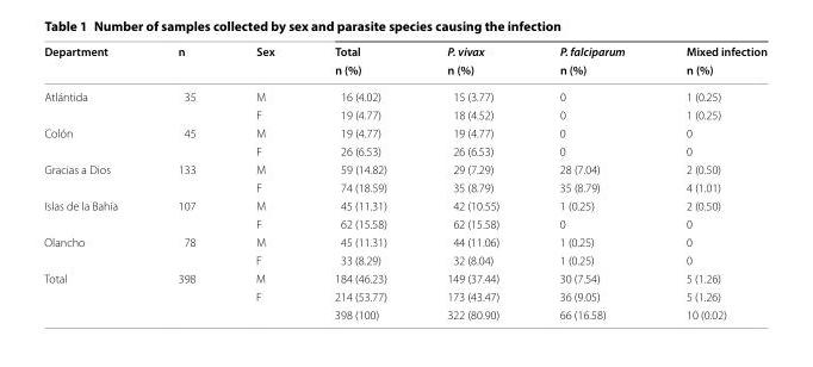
<table><thead><tr><td rowspan="2">Department</td><td rowspan="2">n</td><td rowspan="2">Sex</td><td rowspan="2">Total n (%)</td><td rowspan="2">P. vivax n (%)</td><td rowspan="2">P. falciparum n (%)</td><td rowspan="2">Mixed infection n (%)</td></tr><tr></tr></thead><tbody><tr><td rowspan="2">Atlántida</td><td rowspan="2">35</td><td>M</td><td>16 (4.02)</td><td>15 (3.77)</td><td>0</td><td>1 (0.25)</td></tr><tr><td>F</td><td>19 (4.77)</td><td>18 (4.52)</td><td>0</td><td>1 (0.25)</td></tr><tr><td rowspan="2">Colón</td><td rowspan="2">45</td><td>M</td><td>19 (4.77)</td><td>19 (4.77)</td><td>0</td><td>0</td></tr><tr><td>F</td><td>26 (6.53)</td><td>26 (6.53)</td><td>0</td><td>0</td></tr><tr><td rowspan="2">Gracias a Dios</td><td rowspan="2">133</td><td>M</td><td>59 (14.82)</td><td>29 (7.29)</td><td>28 (7.04)</td><td>2 (0.50)</td></tr><tr><td>F</td><td>74 (18.59)</td><td>35 (8.79)</td><td>35 (8.79)</td><td>4 (1.01)</td></tr><tr><td rowspan="2">Islas de la Bahía</td><td rowspan="2">107</td><td>M</td><td>45 (11.31)</td><td>42 (10.55)</td><td>1 (0.25)</td><td>2 (0.50)</td></tr><tr><td>F</td><td>62 (15.58)</td><td>62 (15.58)</td><td>0</td><td>0</td></tr><tr><td rowspan="2">Olancho</td><td rowspan="2">78</td><td>M</td><td>45 (11.31)</td><td>44 (11.06)</td><td>1 (0.25)</td><td>0</td></tr><tr><td>F</td><td>33 (8.29)</td><td>32 (8.04)</td><td>1 (0.25)</td><td>0</td></tr><tr><td rowspan="3">Total</td><td rowspan="3">398</td><td>M</td><td>184 (46.23)</td><td>149 (37.44)</td><td>30 (7.54)</td><td>5 (1.26)</td></tr><tr><td>F</td><td>214 (53.77)</td><td>173 (43.47)</td><td>36 (9.05)</td><td>5 (1.26)</td></tr><tr><td></td><td>398 (100)</td><td>322 (80.90)</td><td>66 (16.58)</td><td>10 (0.02)</td></tr></tbody></table>